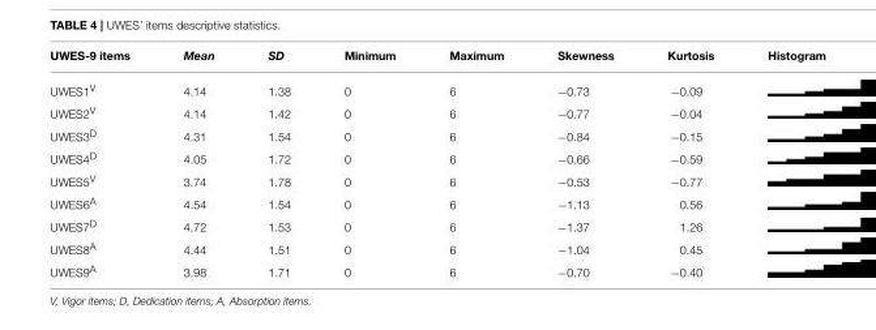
<table><thead><tr><td>UWES-9 items</td><td>Mean</td><td>SD</td><td>Minimum</td><td>Maximum</td><td>Skewness</td><td>Kurtosis</td><td>Histogram</td></tr></thead><tbody><tr><td>UWES1<sup>V</sup></td><td>4.14</td><td>1.38</td><td>0</td><td>6</td><td>−0.73</td><td>−0.09</td><td></td></tr><tr><td>UWES2<sup>V</sup></td><td>4.14</td><td>1.42</td><td>0</td><td>6</td><td>−0.77</td><td>−0.04</td><td></td></tr><tr><td>UWES3<sup>D</sup></td><td>4.31</td><td>1.54</td><td>0</td><td>6</td><td>−0.84</td><td>−0.15</td><td></td></tr><tr><td>UWES4<sup>D</sup></td><td>4.05</td><td>1.72</td><td>0</td><td>6</td><td>−0.66</td><td>−0.59</td><td></td></tr><tr><td>UWES5<sup>V</sup></td><td>3.74</td><td>1.78</td><td>0</td><td>6</td><td>−0.53</td><td>−0.77</td><td></td></tr><tr><td>UWES6<sup>A</sup></td><td>4.54</td><td>1.54</td><td>0</td><td>6</td><td>−1.13</td><td>0.56</td><td></td></tr><tr><td>UWES7<sup>D</sup></td><td>4.72</td><td>1.53</td><td>0</td><td>6</td><td>−1.37</td><td>1.26</td><td></td></tr><tr><td>UWES8<sup>A</sup></td><td>4.44</td><td>1.51</td><td>0</td><td>6</td><td>−1.04</td><td>0.45</td><td></td></tr><tr><td>UWES9<sup>A</sup></td><td>3.98</td><td>1.71</td><td>0</td><td>6</td><td>−0.70</td><td>−0.40</td><td></td></tr></tbody></table>